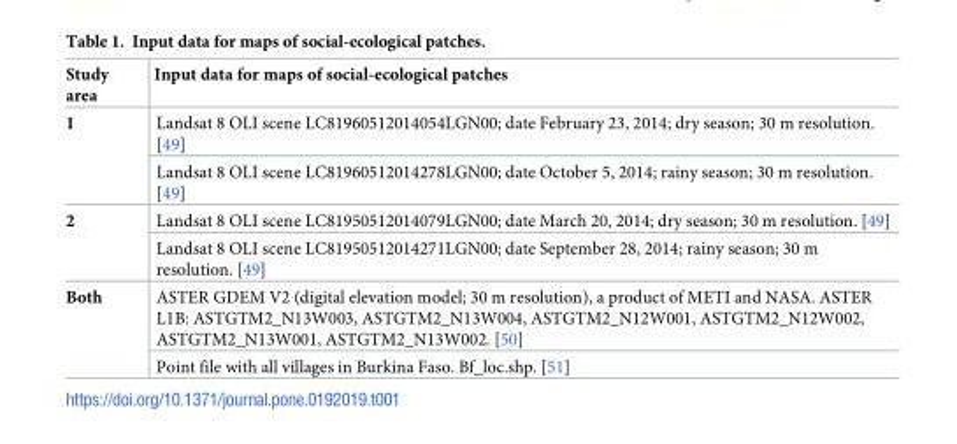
<table><thead><tr><td>Study area</td><td>Input data for maps of social-ecological patches</td></tr></thead><tbody><tr><td rowspan="2">1</td><td>Landsat 8 OLI scene LC81960512014054LGN00; date February 23, 2014; dry season; 30 m resolution. [49]</td></tr><tr><td>Landsat 8 OLI scene LC81960512014278LGN00; date October 5, 2014; rainy season; 30 m resolution. [49]</td></tr><tr><td rowspan="2">2</td><td>Landsat 8 OLI scene LC81950512014079LGN00; date March 20, 2014; dry season; 30 m resolution. [49]</td></tr><tr><td>Landsat 8 OLI scene LC81950512014271LGN00; date September 28, 2014; rainy season; 30 m resolution. [49]</td></tr><tr><td rowspan="2">Both</td><td>ASTER GDEM V2 (digital elevation model; 30 m resolution), a product of METI and NASA. ASTER L1B: ASTGTM2_N13W003, ASTGTM2_N13W004, ASTGTM2_N12W001, ASTGTM2_N12W002, ASTGTM2_N13W001, ASTGTM2_N13W002. [50]</td></tr><tr><td>Point file with all villages in Burkina Faso. Bf_loc.shp. [51]</td></tr></tbody></table>